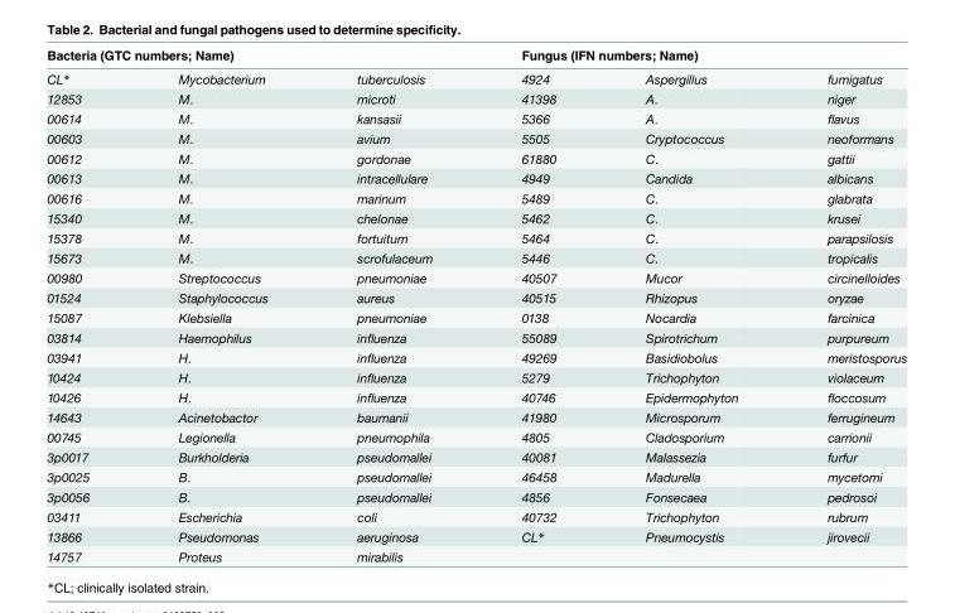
<table><thead><tr><td colspan="3">Bacteria (GTC numbers; Name)</td><td colspan="3">Fungus (IFN numbers; Name)</td></tr><tr><td>CL*</td><td>Mycobacterium</td><td>tuberculosis</td><td>4924</td><td>Aspergillus</td><td>fumigatus</td></tr></thead><tbody><tr><td>12853</td><td>M.</td><td>microti</td><td>41398</td><td>A.</td><td>niger</td></tr><tr><td>00614</td><td>M.</td><td>kansasii</td><td>5366</td><td>A.</td><td>flavus</td></tr><tr><td>00603</td><td>M.</td><td>avium</td><td>5505</td><td>Cryptococcus</td><td>neoformans</td></tr><tr><td>00612</td><td>M.</td><td>gordonae</td><td>61880</td><td>C.</td><td>gattii</td></tr><tr><td>00613</td><td>M.</td><td>intracellulare</td><td>4949</td><td>Candida</td><td>albicans</td></tr><tr><td>00616</td><td>M.</td><td>marinum</td><td>5489</td><td>C.</td><td>glabrata</td></tr><tr><td>15340</td><td>M.</td><td>chelonae</td><td>5462</td><td>C.</td><td>krusei</td></tr><tr><td>15378</td><td>M.</td><td>fortuitum</td><td>5464</td><td>C.</td><td>parapsilosis</td></tr><tr><td>15673</td><td>M.</td><td>scrofulaceum</td><td>5446</td><td>C.</td><td>tropicalis</td></tr><tr><td>00980</td><td>Streptococcus</td><td>pneumoniae</td><td>40507</td><td>Mucor</td><td>circinelloides</td></tr><tr><td>01524</td><td>Staphylococcus</td><td>aureus</td><td>40515</td><td>Rhizopus</td><td>oryzae</td></tr><tr><td>15087</td><td>Klebsiella</td><td>pneumoniae</td><td>0138</td><td>Nocardia</td><td>farcinica</td></tr><tr><td>03814</td><td>Haemophilus</td><td>influenza</td><td>55089</td><td>Spirotrichum</td><td>purpureum</td></tr><tr><td>03941</td><td>H.</td><td>influenza</td><td>49269</td><td>Basidiobolus</td><td>meristosporus</td></tr><tr><td>10424</td><td>H.</td><td>influenza</td><td>5279</td><td>Trichophyton</td><td>violaceum</td></tr><tr><td>10426</td><td>H.</td><td>influenza</td><td>40746</td><td>Epidermophyton</td><td>floccosum</td></tr><tr><td>14643</td><td>Acinetobactor</td><td>baumanii</td><td>41980</td><td>Microsporum</td><td>ferrugineum</td></tr><tr><td>00745</td><td>Legionella</td><td>pneumophila</td><td>4805</td><td>Cladosporium</td><td>carrionii</td></tr><tr><td>3p0017</td><td>Burkholderia</td><td>pseudomallei</td><td>40081</td><td>Malassezia</td><td>furfur</td></tr><tr><td>3p0025</td><td>B.</td><td>pseudomallei</td><td>46458</td><td>Madurella</td><td>mycetomi</td></tr><tr><td>3p0056</td><td>B.</td><td>pseudomallei</td><td>4856</td><td>Fonsecaea</td><td>pedrosoi</td></tr><tr><td>03411</td><td>Escherichia</td><td>coli</td><td>40732</td><td>Trichophyton</td><td>rubrum</td></tr><tr><td>13866</td><td>Pseudomonas</td><td>aeruginosa</td><td>CL*</td><td>Pneumocystis</td><td>jirovecii</td></tr><tr><td>14757</td><td>Proteus</td><td>mirabilis</td><td></td><td></td><td></td></tr></tbody></table>